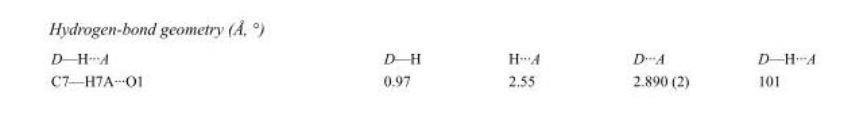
<table><tbody><tr><td>D—H···A</td><td>D—H</td><td>H···A</td><td>D···A</td><td>D—H···A</td></tr><tr><td>C7—H7A···O1</td><td>0.97</td><td>2.55</td><td>2.890 (2)</td><td>101</td></tr></tbody></table>